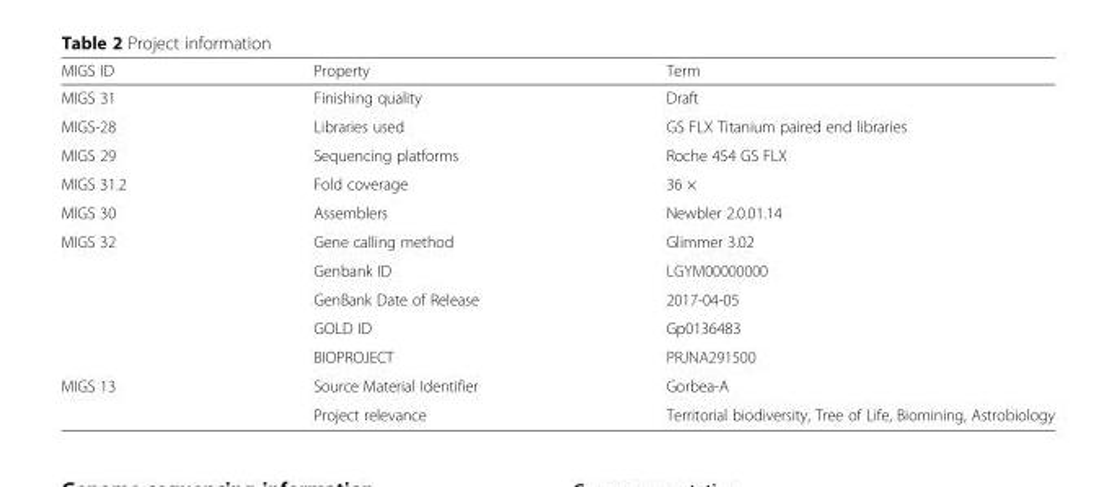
<table><thead><tr><td>MIGS ID</td><td>Property</td><td>Term</td></tr></thead><tbody><tr><td>MIGS 31</td><td>Finishing quality</td><td>Draft</td></tr><tr><td>MIGS-28</td><td>Libraries used</td><td>GS FLX Titanium paired end libraries</td></tr><tr><td>MIGS 29</td><td>Sequencing platforms</td><td>Roche 454 GS FLX</td></tr><tr><td>MIGS 31.2</td><td>Fold coverage</td><td>36 ×</td></tr><tr><td>MIGS 30</td><td>Assemblers</td><td>Newbler 2.0.01.14</td></tr><tr><td rowspan="5">MIGS 32</td><td>Gene calling method</td><td>Glimmer 3.02</td></tr><tr><td>Genbank ID</td><td>LGYM00000000</td></tr><tr><td>GenBank Date of Release</td><td>2017-04-05</td></tr><tr><td>GOLD ID</td><td>Gp0136483</td></tr><tr><td>BIOPROJECT</td><td>PRJNA291500</td></tr><tr><td rowspan="2">MIGS 13</td><td>Source Material Identifier</td><td>Gorbea-A</td></tr><tr><td>Project relevance</td><td>Territorial biodiversity, Tree of Life, Biomining, Astrobiology</td></tr></tbody></table>